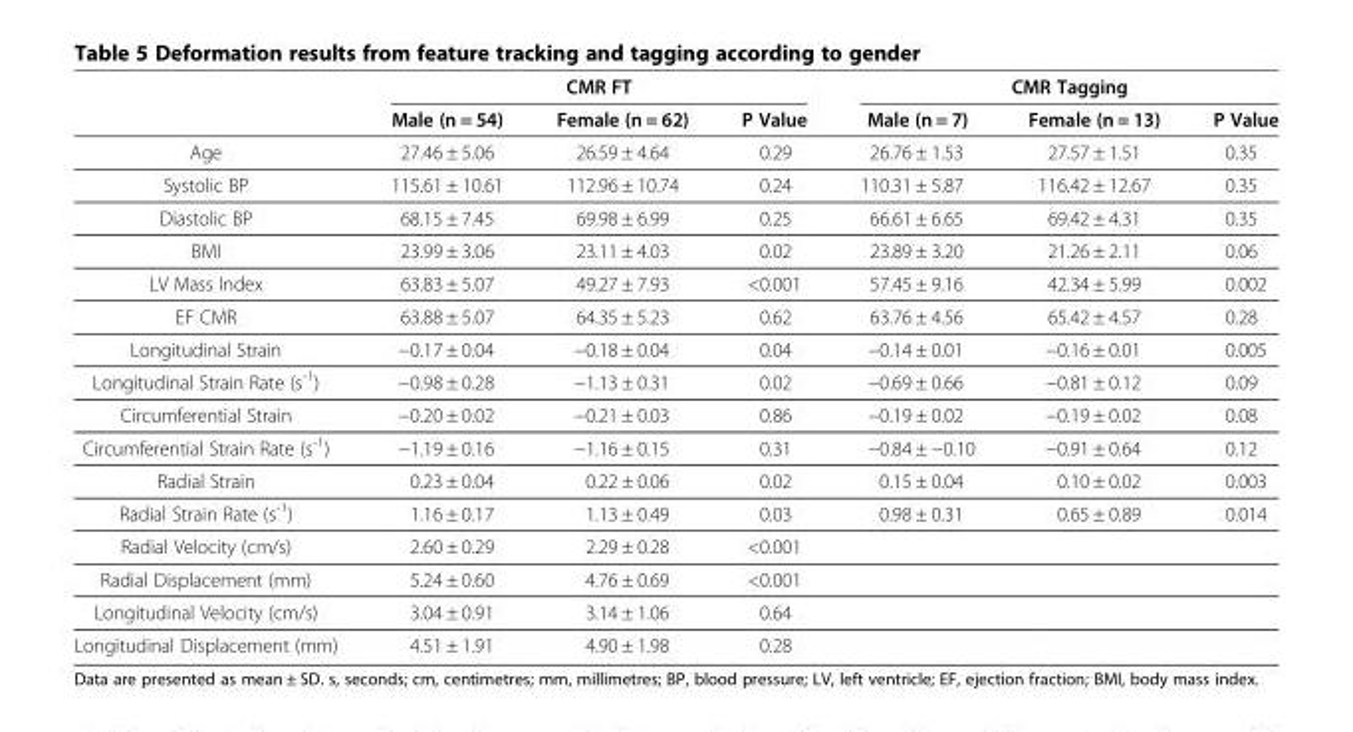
<table><thead><tr><td rowspan="2"></td><td colspan="3">CMR FT</td><td colspan="3">CMR Tagging</td></tr><tr><td>Male (n = 54)</td><td>Female (n = 62)</td><td>P Value</td><td>Male (n = 7)</td><td>Female (n = 13)</td><td>P Value</td></tr></thead><tbody><tr><td>Age</td><td>27.46 ± 5.06</td><td>26.59 ± 4.64</td><td>0.29</td><td>26.76 ± 1.53</td><td>27.57 ± 1.51</td><td>0.35</td></tr><tr><td>Systolic BP</td><td>115.61 ± 10.61</td><td>112.96 ± 10.74</td><td>0.24</td><td>110.31 ± 5.87</td><td>116.42 ± 12.67</td><td>0.35</td></tr><tr><td>Diastolic BP</td><td>68.15 ± 7.45</td><td>69.98 ± 6.99</td><td>0.25</td><td>66.61 ± 6.65</td><td>69.42 ± 4.31</td><td>0.35</td></tr><tr><td>BMI</td><td>23.99 ± 3.06</td><td>23.11 ± 4.03</td><td>0.02</td><td>23.89 ± 3.20</td><td>21.26 ± 2.11</td><td>0.06</td></tr><tr><td>LV Mass Index</td><td>63.83 ± 5.07</td><td>49.27 ± 7.93</td><td>&lt;0.001</td><td>57.45 ± 9.16</td><td>42.34 ± 5.99</td><td>0.002</td></tr><tr><td>EF CMR</td><td>63.88 ± 5.07</td><td>64.35 ± 5.23</td><td>0.62</td><td>63.76 ± 4.56</td><td>65.42 ± 4.57</td><td>0.28</td></tr><tr><td>Longitudinal Strain</td><td>−0.17 ± 0.04</td><td>−0.18 ± 0.04</td><td>0.04</td><td>−0.14 ± 0.01</td><td>−0.16 ± 0.01</td><td>0.005</td></tr><tr><td>Longitudinal Strain Rate (s<sup>-1</sup>)</td><td>−0.98 ± 0.28</td><td>−1.13 ± 0.31</td><td>0.02</td><td>−0.69 ± 0.66</td><td>−0.81 ± 0.12</td><td>0.09</td></tr><tr><td>Circumferential Strain</td><td>−0.20 ± 0.02</td><td>−0.21 ± 0.03</td><td>0.86</td><td>−0.19 ± 0.02</td><td>−0.19 ± 0.02</td><td>0.08</td></tr><tr><td>Circumferential Strain Rate (s<sup>-1</sup>)</td><td>−1.19 ± 0.16</td><td>−1.16 ± 0.15</td><td>0.31</td><td>−0.84 ± −0.10</td><td>−0.91 ± 0.64</td><td>0.12</td></tr><tr><td>Radial Strain</td><td>0.23 ± 0.04</td><td>0.22 ± 0.06</td><td>0.02</td><td>0.15 ± 0.04</td><td>0.10 ± 0.02</td><td>0.003</td></tr><tr><td>Radial Strain Rate (s<sup>-1</sup>)</td><td>1.16 ± 0.17</td><td>1.13 ± 0.49</td><td>0.03</td><td>0.98 ± 0.31</td><td>0.65 ± 0.89</td><td>0.014</td></tr><tr><td>Radial Velocity (cm/s)</td><td>2.60 ± 0.29</td><td>2.29 ± 0.28</td><td>&lt;0.001</td><td></td><td></td><td></td></tr><tr><td>Radial Displacement (mm)</td><td>5.24 ± 0.60</td><td>4.76 ± 0.69</td><td>&lt;0.001</td><td></td><td></td><td></td></tr><tr><td>Longitudinal Velocity (cm/s)</td><td>3.04 ± 0.91</td><td>3.14 ± 1.06</td><td>0.64</td><td></td><td></td><td></td></tr><tr><td>Longitudinal Displacement (mm)</td><td>4.51 ± 1.91</td><td>4.90 ± 1.98</td><td>0.28</td><td></td><td></td><td></td></tr></tbody></table>